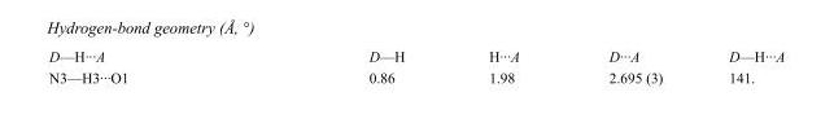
<table><tbody><tr><td>D—H···A</td><td>D—H</td><td>H···A</td><td>D···A</td><td>D—H···A</td></tr><tr><td>N3—H3···O1</td><td>0.86</td><td>1.98</td><td>2.695 (3)</td><td>141.</td></tr></tbody></table>